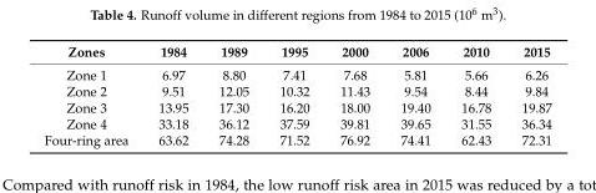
<table><thead><tr><td>Zones</td><td>1984</td><td>1989</td><td>1995</td><td>2000</td><td>2006</td><td>2010</td><td>2015</td></tr></thead><tbody><tr><td>Zone 1</td><td>6.97</td><td>8.80</td><td>7.41</td><td>7.68</td><td>5.81</td><td>5.66</td><td>6.26</td></tr><tr><td>Zone 2</td><td>9.51</td><td>12.05</td><td>10.32</td><td>11.43</td><td>9.54</td><td>8.44</td><td>9.84</td></tr><tr><td>Zone 3</td><td>13.95</td><td>17.30</td><td>16.20</td><td>18.00</td><td>19.40</td><td>16.78</td><td>19.87</td></tr><tr><td>Zone 4</td><td>33.18</td><td>36.12</td><td>37.59</td><td>39.81</td><td>39.65</td><td>31.55</td><td>36.34</td></tr><tr><td>Four-ring area</td><td>63.62</td><td>74.28</td><td>71.52</td><td>76.92</td><td>74.41</td><td>62.43</td><td>72.31</td></tr></tbody></table>